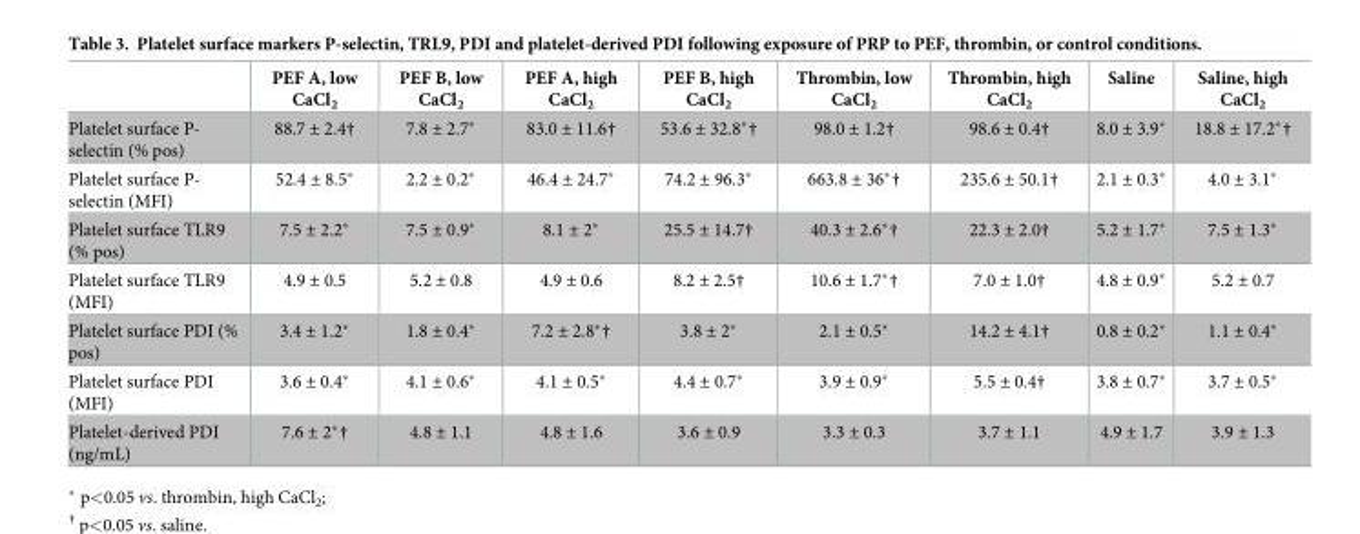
<table><thead><tr><td></td><td>PEF A, low CaCl<sub>2</sub></td><td>PEF B, low CaCl<sub>2</sub></td><td>PEF A, high CaCl<sub>2</sub></td><td>PEF B, high CaCl<sub>2</sub></td><td>Thrombin, low CaCl<sub>2</sub></td><td>Thrombin, high CaCl<sub>2</sub></td><td>Saline</td><td>Saline, high CaCl<sub>2</sub></td></tr></thead><tbody><tr><td>Platelet surface P- selectin (% pos)</td><td>88.7 ± 2.4†</td><td>7.8 ± 2.7*</td><td>83.0 ± 11.6†</td><td>53.6 ± 32.8*†</td><td>98.0 ± 1.2†</td><td>98.6 ± 0.4†</td><td>8.0 ± 3.9*</td><td>18.8 ± 17.2*†</td></tr><tr><td>Platelet surface P- selectin (MFI)</td><td>52.4 ± 8.5*</td><td>2.2 ± 0.2*</td><td>46.4 ± 24.7*</td><td>74.2 ± 96.3*</td><td>663.8 ± 36*†</td><td>235.6 ± 50.1†</td><td>2.1 ± 0.3*</td><td>4.0 ± 3.1*</td></tr><tr><td>Platelet surface TLR9 (% pos)</td><td>7.5 ± 2.2*</td><td>7.5 ± 0.9*</td><td>8.1 ± 2*</td><td>25.5 ± 14.7†</td><td>40.3 ± 2.6*†</td><td>22.3 ± 2.0†</td><td>5.2 ± 1.7*</td><td>7.5 ± 1.3*</td></tr><tr><td>Platelet surface TLR9 (MFI)</td><td>4.9 ± 0.5</td><td>5.2 ± 0.8</td><td>4.9 ± 0.6</td><td>8.2 ± 2.5†</td><td>10.6 ± 1.7*†</td><td>7.0 ± 1.0†</td><td>4.8 ± 0.9*</td><td>5.2 ± 0.7</td></tr><tr><td>Platelet surface PDI (% pos)</td><td>3.4 ± 1.2*</td><td>1.8 ± 0.4*</td><td>7.2 ± 2.8*†</td><td>3.8 ± 2*</td><td>2.1 ± 0.5*</td><td>14.2 ± 4.1†</td><td>0.8 ± 0.2*</td><td>1.1 ± 0.4*</td></tr><tr><td>Platelet surface PDI (MFI)</td><td>3.6 ± 0.4*</td><td>4.1 ± 0.6*</td><td>4.1 ± 0.5*</td><td>4.4 ± 0.7*</td><td>3.9 ± 0.9*</td><td>5.5 ± 0.4†</td><td>3.8 ± 0.7*</td><td>3.7 ± 0.5*</td></tr><tr><td>Platelet-derived PDI (ng/mL)</td><td>7.6 ± 2*†</td><td>4.8 ± 1.1</td><td>4.8 ± 1.6</td><td>3.6 ± 0.9</td><td>3.3 ± 0.3</td><td>3.7 ± 1.1</td><td>4.9 ± 1.7</td><td>3.9 ± 1.3</td></tr></tbody></table>